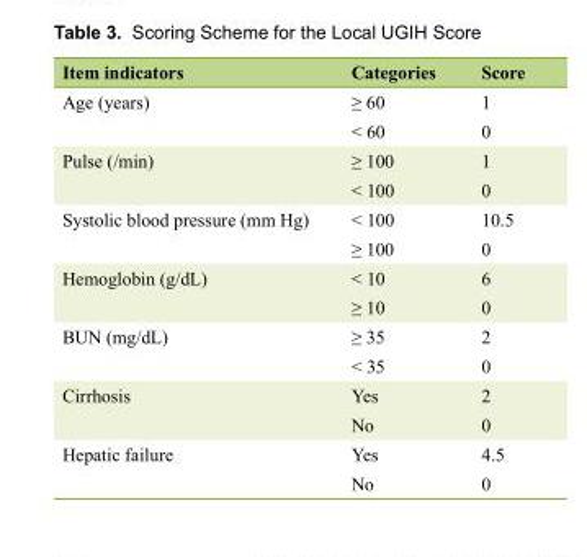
<table><thead><tr><td>Item indicators</td><td>Categories</td><td>Score</td></tr></thead><tbody><tr><td rowspan="2">Age (years)</td><td>≥ 60</td><td>1</td></tr><tr><td>&lt; 60</td><td>0</td></tr><tr><td rowspan="2">Pulse (/min)</td><td>≥ 100</td><td>1</td></tr><tr><td>&lt; 100</td><td>0</td></tr><tr><td rowspan="2">Systolic blood pressure (mm Hg)</td><td>&lt; 100</td><td>10.5</td></tr><tr><td>≥ 100</td><td>0</td></tr><tr><td rowspan="2">Hemoglobin (g/dL)</td><td>&lt; 10</td><td>6</td></tr><tr><td>≥ 10</td><td>0</td></tr><tr><td rowspan="2">BUN (mg/dL)</td><td>≥ 35</td><td>2</td></tr><tr><td>&lt; 35</td><td>0</td></tr><tr><td rowspan="2">Cirrhosis</td><td>Yes</td><td>2</td></tr><tr><td>No</td><td>0</td></tr><tr><td rowspan="2">Hepatic failure</td><td>Yes</td><td>4.5</td></tr><tr><td>No</td><td>0</td></tr></tbody></table>